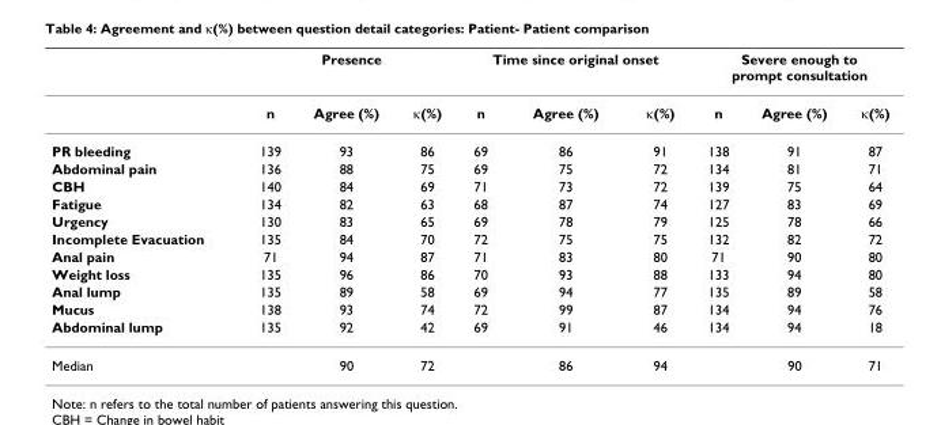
<table><thead><tr><td rowspan="2"></td><td colspan="3">Presence</td><td colspan="3">Time since original onset</td><td colspan="3">Severe enough to prompt consultation</td></tr><tr><td>n</td><td>Agree (%)</td><td>κ(%)</td><td>n</td><td>Agree (%)</td><td>κ(%)</td><td>n</td><td>Agree (%)</td><td>κ(%)</td></tr></thead><tbody><tr><td>PR bleeding</td><td>139</td><td>93</td><td>86</td><td>69</td><td>86</td><td>91</td><td>138</td><td>91</td><td>87</td></tr><tr><td>Abdominal pain</td><td>136</td><td>88</td><td>75</td><td>69</td><td>75</td><td>72</td><td>134</td><td>81</td><td>71</td></tr><tr><td>CBH</td><td>140</td><td>84</td><td>69</td><td>71</td><td>73</td><td>72</td><td>139</td><td>75</td><td>64</td></tr><tr><td>Fatigue</td><td>134</td><td>82</td><td>63</td><td>68</td><td>87</td><td>74</td><td>127</td><td>83</td><td>69</td></tr><tr><td>Urgency</td><td>130</td><td>83</td><td>65</td><td>69</td><td>78</td><td>79</td><td>125</td><td>78</td><td>66</td></tr><tr><td>Incomplete Evacuation</td><td>135</td><td>84</td><td>70</td><td>72</td><td>75</td><td>75</td><td>132</td><td>82</td><td>72</td></tr><tr><td>Anal pain</td><td>71</td><td>94</td><td>87</td><td>71</td><td>83</td><td>80</td><td>71</td><td>90</td><td>80</td></tr><tr><td>Weight loss</td><td>135</td><td>96</td><td>86</td><td>70</td><td>93</td><td>88</td><td>133</td><td>94</td><td>80</td></tr><tr><td>Anal lump</td><td>135</td><td>89</td><td>58</td><td>69</td><td>94</td><td>77</td><td>135</td><td>89</td><td>58</td></tr><tr><td>Mucus</td><td>138</td><td>93</td><td>74</td><td>72</td><td>99</td><td>87</td><td>134</td><td>94</td><td>76</td></tr><tr><td>Abdominal lump</td><td>135</td><td>92</td><td>42</td><td>69</td><td>91</td><td>46</td><td>134</td><td>94</td><td>18</td></tr><tr><td>Median</td><td></td><td>90</td><td>72</td><td></td><td>86</td><td>94</td><td></td><td>90</td><td>71</td></tr></tbody></table>